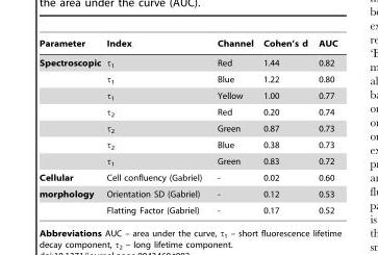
<table><thead><tr><td>Parameter</td><td>Index</td><td>Channel</td><td>Cohen’s d</td><td>AUC</td></tr></thead><tbody><tr><td rowspan="7">Spectroscopic</td><td>τ<sub>1</sub></td><td>Red</td><td>1.44</td><td>0.82</td></tr><tr><td>τ<sub>1</sub></td><td>Blue</td><td>1.22</td><td>0.80</td></tr><tr><td>τ<sub>1</sub></td><td>Yellow</td><td>1.00</td><td>0.77</td></tr><tr><td>τ<sub>2</sub></td><td>Red</td><td>0.20</td><td>0.74</td></tr><tr><td>τ<sub>2</sub></td><td>Green</td><td>0.87</td><td>0.73</td></tr><tr><td>τ<sub>2</sub></td><td>Blue</td><td>0.38</td><td>0.73</td></tr><tr><td>τ<sub>1</sub></td><td>Green</td><td>0.83</td><td>0.72</td></tr><tr><td>Cellular</td><td>Cell confluency (Gabriel)</td><td>-</td><td>0.02</td><td>0.60</td></tr><tr><td rowspan="2">morphology</td><td>Orientation SD (Gabriel)</td><td>-</td><td>0.12</td><td>0.53</td></tr><tr><td>Flatting Factor (Gabriel)</td><td>-</td><td>0.17</td><td>0.52</td></tr></tbody></table>